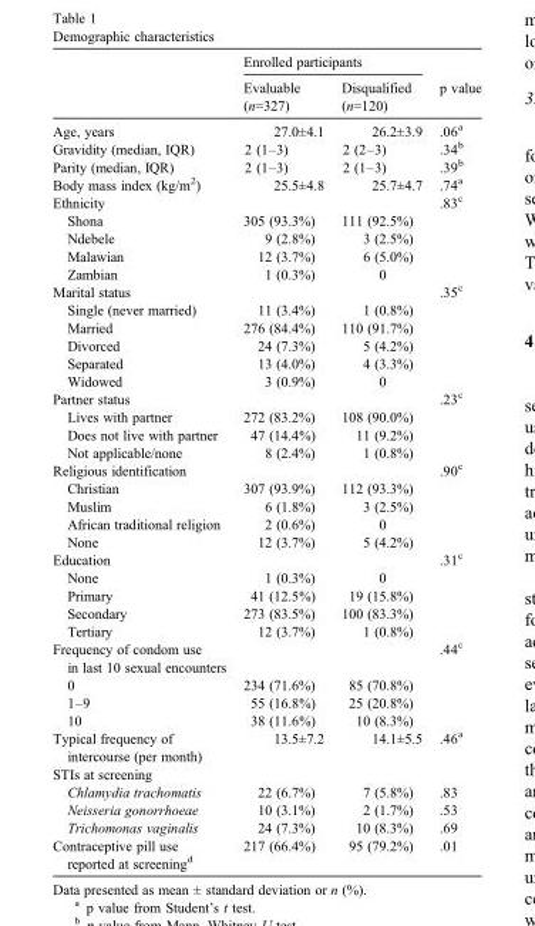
<table><thead><tr><td rowspan="2"></td><td colspan="2">Enrolled participants</td><td rowspan="2">p value</td></tr><tr><td>Evaluable (n=327)</td><td>Disqualified (n=120)</td></tr></thead><tbody><tr><td>Age, years</td><td>27.0±4.1</td><td>26.2±3.9</td><td>.06<sup>a</sup></td></tr><tr><td>Gravidity (median, IQR)</td><td>2 (1–3)</td><td>2 (2–3)</td><td>.34<sup>b</sup></td></tr><tr><td>Parity (median, IQR)</td><td>2 (1–3)</td><td>2 (1–3)</td><td>.39<sup>b</sup></td></tr><tr><td>Body mass index (kg/m<sup>2</sup>)</td><td>25.5±4.8</td><td>25.7±4.7</td><td>.74<sup>a</sup></td></tr><tr><td>Ethnicity</td><td></td><td></td><td>.83<sup>c</sup></td></tr><tr><td>Shona</td><td>305 (93.3%)</td><td>111 (92.5%)</td><td></td></tr><tr><td>Ndebele</td><td>9 (2.8%)</td><td>3 (2.5%)</td><td></td></tr><tr><td>Malawian</td><td>12 (3.7%)</td><td>6 (5.0%)</td><td></td></tr><tr><td>Zambian</td><td>1 (0.3%)</td><td>0</td><td></td></tr><tr><td>Marital status</td><td></td><td></td><td>.35<sup>c</sup></td></tr><tr><td>Single (never married)</td><td>11 (3.4%)</td><td>1 (0.8%)</td><td></td></tr><tr><td>Married</td><td>276 (84.4%)</td><td>110 (91.7%)</td><td></td></tr><tr><td>Divorced</td><td>24 (7.3%)</td><td>5 (4.2%)</td><td></td></tr><tr><td>Separated</td><td>13 (4.0%)</td><td>4 (3.3%)</td><td></td></tr><tr><td>Widowed</td><td>3 (0.9%)</td><td>0</td><td></td></tr><tr><td>Partner status</td><td></td><td></td><td>.23<sup>c</sup></td></tr><tr><td>Lives with partner</td><td>272 (83.2%)</td><td>108 (90.0%)</td><td></td></tr><tr><td>Does not live with partner</td><td>47 (14.4%)</td><td>11 (9.2%)</td><td></td></tr><tr><td>Not applicable/none</td><td>8 (2.4%)</td><td>1 (0.8%)</td><td></td></tr><tr><td>Religious identification</td><td></td><td></td><td>.90<sup>c</sup></td></tr><tr><td>Christian</td><td>307 (93.9%)</td><td>112 (93.3%)</td><td></td></tr><tr><td>Muslim</td><td>6 (1.8%)</td><td>3 (2.5%)</td><td></td></tr><tr><td>African traditional religion</td><td>2 (0.6%)</td><td>0</td><td></td></tr><tr><td>None</td><td>12 (3.7%)</td><td>5 (4.2%)</td><td></td></tr><tr><td>Education</td><td></td><td></td><td>.31<sup>c</sup></td></tr><tr><td>None</td><td>1 (0.3%)</td><td>0</td><td></td></tr><tr><td>Primary</td><td>41 (12.5%)</td><td>19 (15.8%)</td><td></td></tr><tr><td>Secondary</td><td>273 (83.5%)</td><td>100 (83.3%)</td><td></td></tr><tr><td>Tertiary</td><td>12 (3.7%)</td><td>1 (0.8%)</td><td></td></tr><tr><td>Frequency of condom use in last 10 sexual encounters</td><td></td><td></td><td>.44<sup>c</sup></td></tr><tr><td>0</td><td>234 (71.6%)</td><td>85 (70.8%)</td><td></td></tr><tr><td>1–9</td><td>55 (16.8%)</td><td>25 (20.8%)</td><td></td></tr><tr><td>10</td><td>38 (11.6%)</td><td>10 (8.3%)</td><td></td></tr><tr><td>Typical frequency of intercourse (per month)</td><td>13.5±7.2</td><td>14.1±5.5</td><td>.46<sup>a</sup></td></tr><tr><td colspan="4">STIs at screening</td></tr><tr><td>Chlamydia trachomatis</td><td>22 (6.7%)</td><td>7 (5.8%)</td><td>.83</td></tr><tr><td>Neisseria gonorrhoeae</td><td>10 (3.1%)</td><td>2 (1.7%)</td><td>.53</td></tr><tr><td>Trichomonas vaginalis</td><td>24 (7.3%)</td><td>10 (8.3%)</td><td>.69</td></tr><tr><td>Contraceptive pill use reported at screening<sup>d</sup></td><td>217 (66.4%)</td><td>95 (79.2%)</td><td>.01</td></tr></tbody></table>